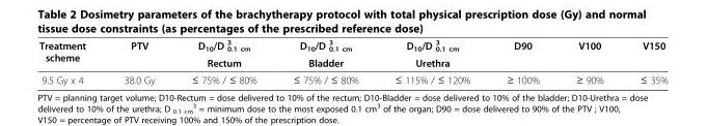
<table><thead><tr><td rowspan="2">Treatment scheme</td><td rowspan="2">PTV</td><td rowspan="2">D<sub>10</sub>/D <sub>0.1 cm</sub> <sup>3</sup> Rectum</td><td rowspan="2">D<sub>10</sub>/D <sub>0.1 cm</sub> <sup>3</sup> Bladder</td><td rowspan="2">D<sub>10</sub>/D <sub>0.1 cm</sub> <sup>3</sup> Urethra</td><td rowspan="2">D90</td><td rowspan="2">V100</td><td rowspan="2">V150</td></tr><tr></tr></thead><tbody><tr><td>9.5 Gy x 4</td><td>38.0 Gy</td><td>≤ 75% / ≤ 80%</td><td>≤ 75% / ≤ 80%</td><td>≤ 115% / ≤ 120%</td><td>≥ 100%</td><td>≥ 90%</td><td>≤ 35%</td></tr></tbody></table>